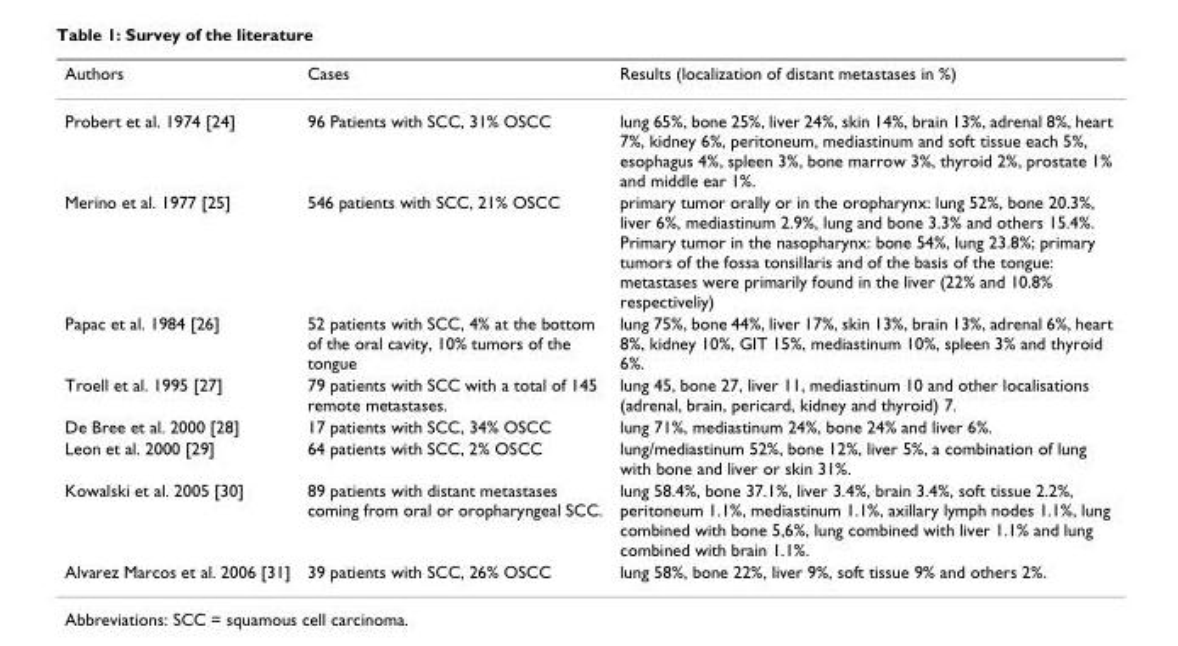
<table><thead><tr><td>Authors</td><td>Cases</td><td>Results (localization of distant metastases in %)</td></tr></thead><tbody><tr><td>Probert et al. 1974 [24]</td><td>96 Patients with SCC, 31% OSCC</td><td>lung 65%, bone 25%, liver 24%, skin 14%, brain 13%, adrenal 8%, heart 7%, kidney 6%, peritoneum, mediastinum and soft tissue each 5%, esophagus 4%, spleen 3%, bone marrow 3%, thyroid 2%, prostate 1% and middle ear 1%.</td></tr><tr><td>Merino et al. 1977 [25]</td><td>546 patients with SCC, 21% OSCC</td><td>primary tumor orally or in the oropharynx: lung 52%, bone 20.3%, liver 6%, mediastinum 2.9%, lung and bone 3.3% and others 15.4%. Primary tumor in the nasopharynx: bone 54%, lung 23.8%; primary tumors of the fossa tonsillaris and of the basis of the tongue: metastases were primarily found in the liver (22% and 10.8% respectiveliy)</td></tr><tr><td>Papac et al. 1984 [26]</td><td>52 patients with SCC, 4% at the bottom of the oral cavity, 10% tumors of the tongue</td><td>lung 75%, bone 44%, liver 17%, skin 13%, brain 13%, adrenal 6%, heart 8%, kidney 10%, GIT 15%, mediastinum 10%, spleen 3% and thyroid 6%.</td></tr><tr><td>Troell et al. 1995 [27]</td><td>79 patients with SCC with a total of 145 remote metastases.</td><td>lung 45, bone 27, liver 11, mediastinum 10 and other localisations (adrenal, brain, pericard, kidney and thyroid) 7.</td></tr><tr><td>De Bree et al. 2000 [28]</td><td>17 patients with SCC, 34% OSCC</td><td>lung 71%, mediastinum 24%, bone 24% and liver 6%.</td></tr><tr><td>Leon et al. 2000 [29]</td><td>64 patients with SCC, 2% OSCC</td><td>lung/mediastinum 52%, bone 12%, liver 5%, a combination of lung with bone and liver or skin 31%.</td></tr><tr><td>Kowalski et al. 2005 [30]</td><td>89 patients with distant metastases coming from oral or oropharyngeal SCC.</td><td>lung 58.4%, bone 37.1%, liver 3.4%, brain 3.4%, soft tissue 2.2%, peritoneum 1.1%, mediastinum 1.1%, axillary lymph nodes 1.1%, lung combined with bone 5,6%, lung combined with liver 1.1% and lung combined with brain 1.1%.</td></tr><tr><td>Alvarez Marcos et al. 2006 [31]</td><td>39 patients with SCC, 26% OSCC</td><td>lung 58%, bone 22%, liver 9%, soft tissue 9% and others 2%.</td></tr></tbody></table>